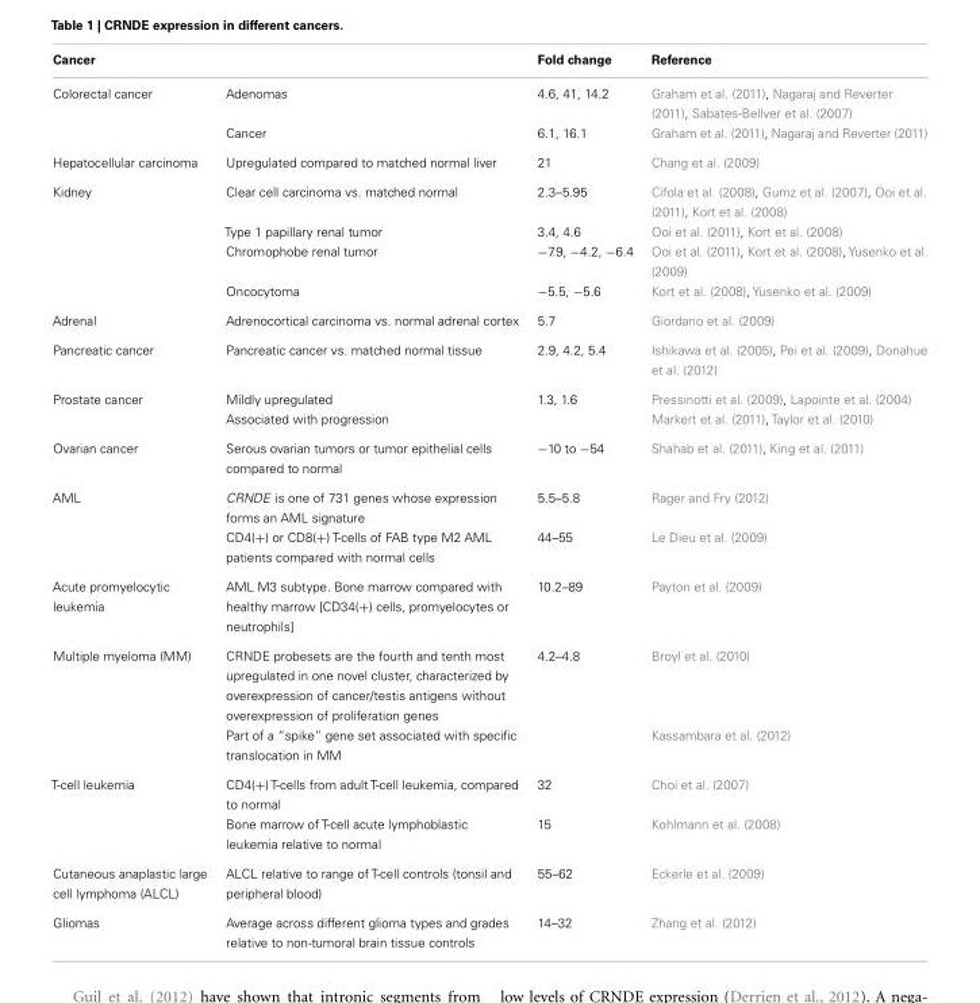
<table><thead><tr><td>Cancer</td><td></td><td>Fold change</td><td>Reference</td></tr></thead><tbody><tr><td rowspan="2">Colorectal cancer</td><td>Adenomas</td><td>4.6, 41, 14.2</td><td>Graham et al. (2011), Nagaraj and Reverter (2011), Sabates-Bellver et al. (2007)</td></tr><tr><td>Cancer</td><td>6.1, 16.1</td><td>Graham et al. (2011), Nagaraj and Reverter (2011)</td></tr><tr><td>Hepatocellular carcinoma</td><td>Upregulated compared to matched normal liver</td><td>21</td><td>Chang et al. (2009)</td></tr><tr><td rowspan="4">Kidney</td><td>Clear cell carcinoma vs. matched normal</td><td>2.3–5.95</td><td>Cifola et al. (2008), Gumz et al. (2007), Ooi et al. (2011), Kort et al. (2008)</td></tr><tr><td>Type 1 papillary renal tumor</td><td>3.4, 4.6</td><td>Ooi et al. (2011), Kort et al. (2008)</td></tr><tr><td>Chromophobe renal tumor</td><td>−7.9, −4.2, −6.4</td><td>Ooi et al. (2011), Kort et al. (2008), Yusenko et al. (2009)</td></tr><tr><td>Oncocytoma</td><td>−5.5, −5.6</td><td>Kort et al. (2008), Yusenko et al. (2009)</td></tr><tr><td>Adrenal</td><td>Adrenocortical carcinoma vs. normal adrenal cortex</td><td>5.7</td><td>Giordano et al. (2009)</td></tr><tr><td>Pancreatic cancer</td><td>Pancreatic cancer vs. matched normal tissue</td><td>2.9, 4.2, 5.4</td><td>Ishikawa et al. (2005), Pei et al. (2009), Donahue et al. (2012)</td></tr><tr><td rowspan="2">Prostate cancer</td><td>Mildly upregulated</td><td>1.3, 1.6</td><td>Pressinotti et al. (2009), Lapointe et al. (2004)</td></tr><tr><td>Associated with progression</td><td></td><td>Markert et al. (2011), Taylor et al. (2010)</td></tr><tr><td>Ovarian cancer</td><td>Serous ovarian tumors or tumor epithelial cells compared to normal</td><td>−10 to −54</td><td>Shahab et al. (2011), King et al. (2011)</td></tr><tr><td rowspan="2">AML</td><td>CRNDE is one of 731 genes whose expression forms an AML signature</td><td>5.5–5.8</td><td>Rager and Fry (2012)</td></tr><tr><td>CD4(+) or CD8(+) T-cells of FAB type M2 AML patients compared with normal cells</td><td>44–55</td><td>Le Dieu et al. (2009)</td></tr><tr><td>Acute promyelocytic leukemia</td><td>AML M3 subtype. Bone marrow compared with healthy marrow [CD34(+) cells, promyelocytes or neutrophils]</td><td>10.2–89</td><td>Payton et al. (2009)</td></tr><tr><td rowspan="2">Multiple myeloma (MM)</td><td>CRNDE probesets are the fourth and tenth most upregulated in one novel cluster, characterized by overexpression of cancer/testis antigens without overexpression of proliferation genes</td><td>4.2–4.8</td><td>Broyl et al. (2010)</td></tr><tr><td>Part of a “spike” gene set associated with specific translocation in MM</td><td></td><td>Kassambara et al. (2012)</td></tr><tr><td rowspan="2">T-cell leukemia</td><td>CD4(+) T-cells from adult T-cell leukemia, compared to normal</td><td>32</td><td>Choi et al. (2007)</td></tr><tr><td>Bone marrow of T-cell acute lymphoblastic leukemia relative to normal</td><td>15</td><td>Kohlmann et al. (2008)</td></tr><tr><td>Cutaneous anaplastic large cell lymphoma (ALCL)</td><td>ALCL relative to range of T-cell controls (tonsil and peripheral blood)</td><td>55–62</td><td>Eckerle et al. (2009)</td></tr><tr><td>Gliomas</td><td>Average across different glioma types and grades relative to non-tumoral brain tissue controls</td><td>14–32</td><td>Zhang et al. (2012)</td></tr></tbody></table>